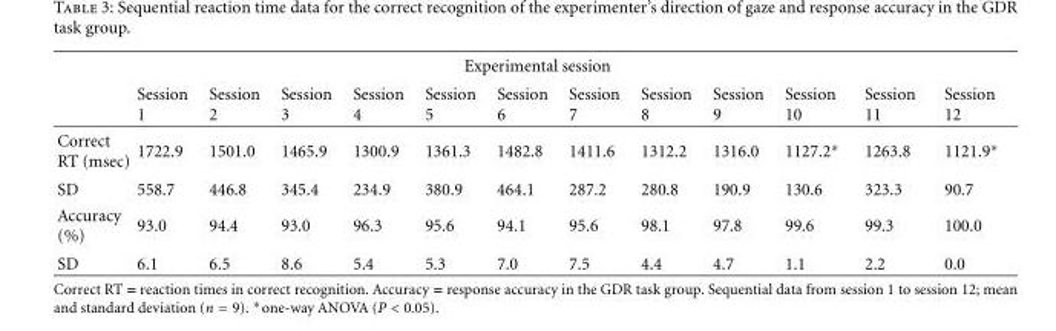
<table><thead><tr><td rowspan="2"></td><td colspan="11">Experimental session</td><td rowspan="2">Session 12</td></tr><tr><td>Session 1</td><td>Session 2</td><td>Session 3</td><td>Session 4</td><td>Session 5</td><td>Session 6</td><td>Session 7</td><td>Session 8</td><td>Session 9</td><td>Session 10</td><td>Session 11</td></tr></thead><tbody><tr><td>Correct RT (msec)</td><td>1722.9</td><td>1501.0</td><td>1465.9</td><td>1300.9</td><td>1361.3</td><td>1482.8</td><td>1411.6</td><td>1312.2</td><td>1316.0</td><td>1127.2∗</td><td>1263.8</td><td>1121.9∗</td></tr><tr><td>SD</td><td>558.7</td><td>446.8</td><td>345.4</td><td>234.9</td><td>380.9</td><td>464.1</td><td>287.2</td><td>280.8</td><td>190.9</td><td>130.6</td><td>323.3</td><td>90.7</td></tr><tr><td>Accuracy (%)</td><td>93.0</td><td>94.4</td><td>93.0</td><td>96.3</td><td>95.6</td><td>94.1</td><td>95.6</td><td>98.1</td><td>97.8</td><td>99.6</td><td>99.3</td><td>100.0</td></tr><tr><td>SD</td><td>6.1</td><td>6.5</td><td>8.6</td><td>5.4</td><td>5.3</td><td>7.0</td><td>7.5</td><td>4.4</td><td>4.7</td><td>1.1</td><td>2.2</td><td>0.0</td></tr></tbody></table>